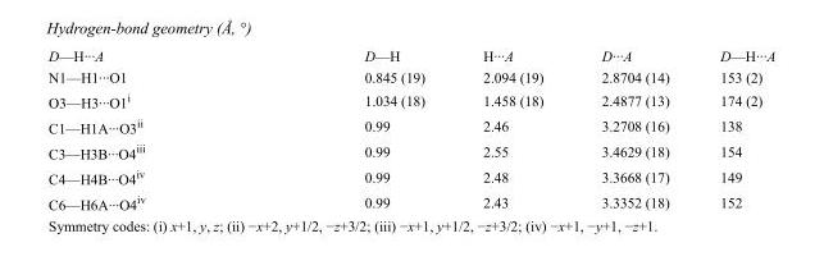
<table><tbody><tr><td>D—H···A</td><td>D—H</td><td>H···A</td><td>D···A</td><td>D—H···A</td></tr><tr><td>N1—H1···O1</td><td>0.845 (19)</td><td>2.094 (19)</td><td>2.8704 (14)</td><td>153 (2)</td></tr><tr><td>O3—H3···O1<sup>i</sup></td><td>1.034 (18)</td><td>1.458 (18)</td><td>2.4877 (13)</td><td>174 (2)</td></tr><tr><td>C1—H1A···O3<sup>ii</sup></td><td>0.99</td><td>2.46</td><td>3.2708 (16)</td><td>138</td></tr><tr><td>C3—H3B···O4<sup>iii</sup></td><td>0.99</td><td>2.55</td><td>3.4629 (18)</td><td>154</td></tr><tr><td>C4—H4B···O4<sup>iv</sup></td><td>0.99</td><td>2.48</td><td>3.3668 (17)</td><td>149</td></tr><tr><td>C6—H6A···O4<sup>iv</sup></td><td>0.99</td><td>2.43</td><td>3.3352 (18)</td><td>152</td></tr></tbody></table>